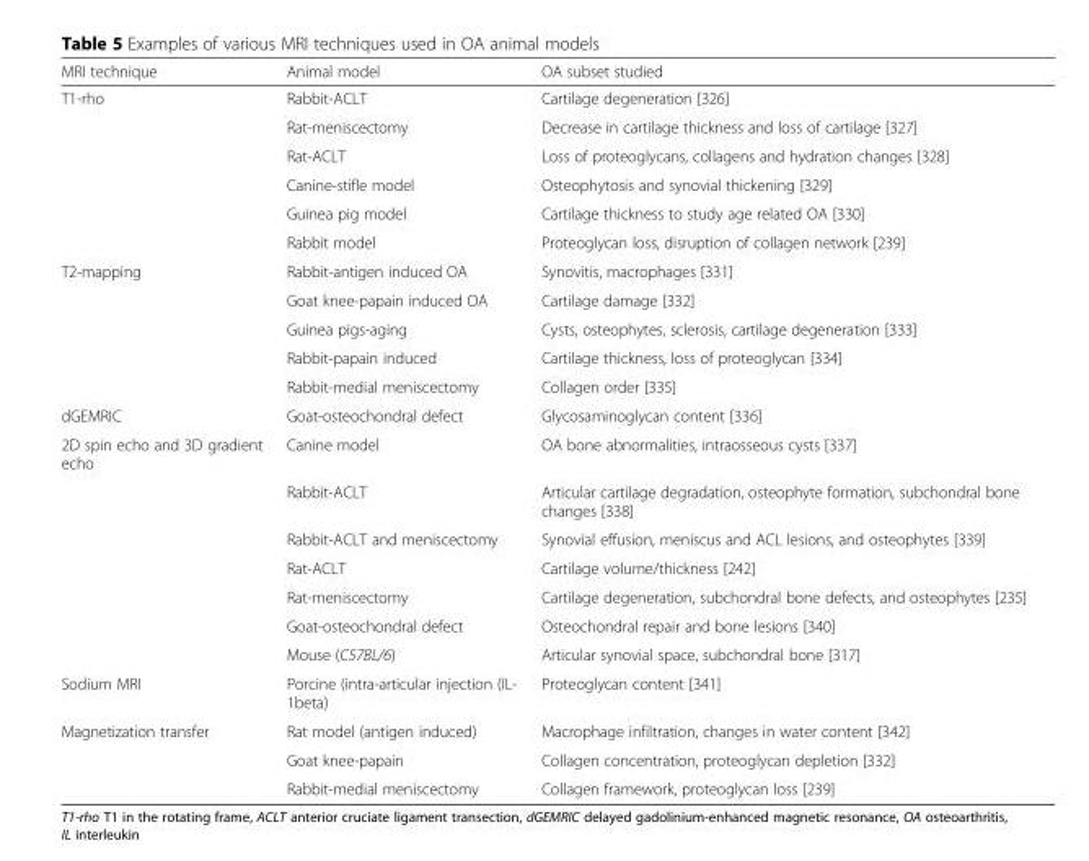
<table><thead><tr><td>MRI technique</td><td>Animal model</td><td>OA subset studied</td></tr></thead><tbody><tr><td rowspan="6">T1-rho</td><td>Rabbit-ACLT</td><td>Cartilage degeneration [326]</td></tr><tr><td>Rat-meniscectomy</td><td>Decrease in cartilage thickness and loss of cartilage [327]</td></tr><tr><td>Rat-ACLT</td><td>Loss of proteoglycans, collagens and hydration changes [328]</td></tr><tr><td>Canine-stifle model</td><td>Osteophytosis and synovial thickening [329]</td></tr><tr><td>Guinea pig model</td><td>Cartilage thickness to study age related OA [330]</td></tr><tr><td>Rabbit model</td><td>Proteoglycan loss, disruption of collagen network [239]</td></tr><tr><td rowspan="5">T2-mapping</td><td>Rabbit-antigen induced OA</td><td>Synovitis, macrophages [331]</td></tr><tr><td>Goat knee-papain induced OA</td><td>Cartilage damage [332]</td></tr><tr><td>Guinea pigs-aging</td><td>Cysts, osteophytes, sclerosis, cartilage degeneration [333]</td></tr><tr><td>Rabbit-papain induced</td><td>Cartilage thickness, loss of proteoglycan [334]</td></tr><tr><td>Rabbit-medial meniscectomy</td><td>Collagen order [335]</td></tr><tr><td>dGEMRIC</td><td>Goat-osteochondral defect</td><td>Glycosaminoglycan content [336]</td></tr><tr><td rowspan="7">2D spin echo and 3D gradient echo</td><td>Canine model</td><td>OA bone abnormalities, intraosseous cysts [337]</td></tr><tr><td>Rabbit-ACLT</td><td>Articular cartilage degradation, osteophyte formation, subchondral bone changes [338]</td></tr><tr><td>Rabbit-ACLT and meniscectomy</td><td>Synovial effusion, meniscus and ACL lesions, and osteophytes [339]</td></tr><tr><td>Rat-ACLT</td><td>Cartilage volume/thickness [242]</td></tr><tr><td>Rat-meniscectomy</td><td>Cartilage degeneration, subchondral bone defects, and osteophytes [235]</td></tr><tr><td>Goat-osteochondral defect</td><td>Osteochondral repair and bone lesions [340]</td></tr><tr><td>Mouse (C57BL/6)</td><td>Articular synovial space, subchondral bone [317]</td></tr><tr><td>Sodium MRI</td><td>Porcine (intra-articular injection (IL- 1beta)</td><td>Proteoglycan content [341]</td></tr><tr><td rowspan="3">Magnetization transfer</td><td>Rat model (antigen induced)</td><td>Macrophage infiltration, changes in water content [342]</td></tr><tr><td>Goat knee-papain</td><td>Collagen concentration, proteoglycan depletion [332]</td></tr><tr><td>Rabbit-medial meniscectomy</td><td>Collagen framework, proteoglycan loss [239]</td></tr></tbody></table>